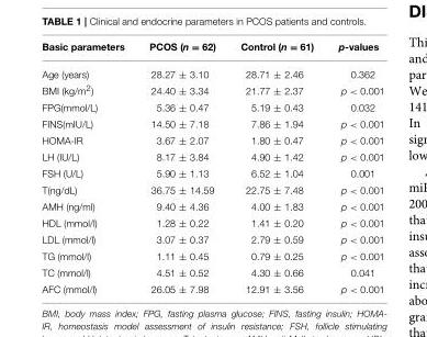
<table><thead><tr><td>Basic parameters</td><td>PCOS (n = 62)</td><td>Control (n = 61)</td><td>p-values</td></tr></thead><tbody><tr><td>Age (years)</td><td>28.27 ± 3.10</td><td>28.71 ± 2.46</td><td>0.362</td></tr><tr><td>BMI (kg/m<sup>2</sup>)</td><td>24.40 ± 3.34</td><td>21.77 ± 2.37</td><td>p &lt; 0.001</td></tr><tr><td>FPG(mmol/L)</td><td>5.36 ± 0.47</td><td>5.19 ± 0.43</td><td>0.032</td></tr><tr><td>FINS(mIU/L)</td><td>14.50 ± 7.18</td><td>7.86 ± 1.94</td><td>p &lt; 0.001</td></tr><tr><td>HOMA-IR</td><td>3.67 ± 2.07</td><td>1.80 ± 0.47</td><td>p &lt; 0.001</td></tr><tr><td>LH (IU/L)</td><td>8.17 ± 3.84</td><td>4.90 ± 1.42</td><td>p &lt; 0.001</td></tr><tr><td>FSH (U/L)</td><td>5.90 ± 1.13</td><td>6.52 ± 1.04</td><td>0.001</td></tr><tr><td>T(ng/dL)</td><td>36.75 ± 14.59</td><td>22.75 ± 7.48</td><td>p &lt; 0.001</td></tr><tr><td>AMH (ng/ml)</td><td>9.40 ± 4.36</td><td>4.00 ± 1.83</td><td>p &lt; 0.001</td></tr><tr><td>HDL (mmol/l)</td><td>1.28 ± 0.22</td><td>1.41 ± 0.20</td><td>p &lt; 0.001</td></tr><tr><td>LDL (mmol/l)</td><td>3.07 ± 0.37</td><td>2.79 ± 0.59</td><td>p &lt; 0.001</td></tr><tr><td>TG (mmol/l)</td><td>1.11 ± 0.45</td><td>0.79 ± 0.25</td><td>p &lt; 0.001</td></tr><tr><td>TC (mmol/l)</td><td>4.51 ± 0.52</td><td>4.30 ± 0.66</td><td>0.041</td></tr><tr><td>AFC (mmol/l)</td><td>26.05 ± 7.98</td><td>12.91 ± 3.56</td><td>p &lt; 0.001</td></tr></tbody></table>